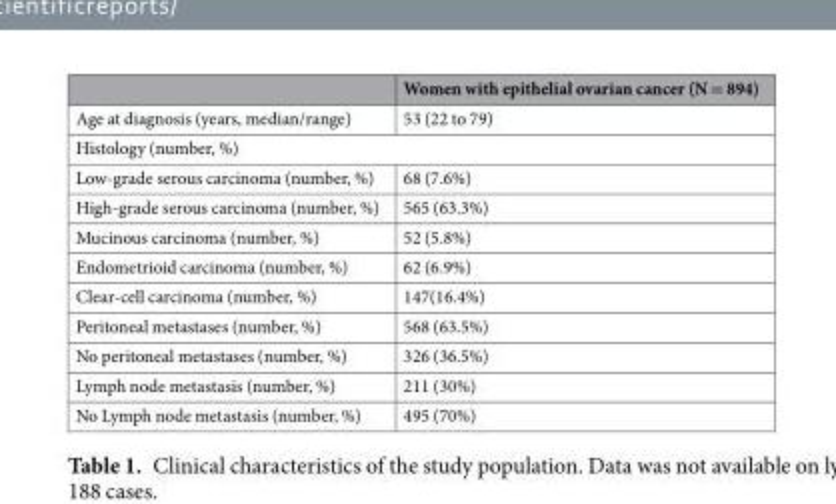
<table><thead><tr><td></td><td>Women with epithelial ovarian cancer (N = 894)</td></tr></thead><tbody><tr><td>Age at diagnosis (years, median/range)</td><td>53 (22 to 79)</td></tr><tr><td colspan="2">Histology (number, %)</td></tr><tr><td>Low-grade serous carcinoma (number, %)</td><td>68 (7.6%)</td></tr><tr><td>High-grade serous carcinoma (number, %)</td><td>565 (63.3%)</td></tr><tr><td>Mucinous carcinoma (number, %)</td><td>52 (5.8%)</td></tr><tr><td>Endometrioid carcinoma (number, %)</td><td>62 (6.9%)</td></tr><tr><td>Clear-cell carcinoma (number, %)</td><td>147(16.4%)</td></tr><tr><td>Peritoneal metastases (number, %)</td><td>568 (63.5%)</td></tr><tr><td>No peritoneal metastases (number, %)</td><td>326 (36.5%)</td></tr><tr><td>Lymph node metastasis (number, %)</td><td>211 (30%)</td></tr><tr><td>No Lymph node metastasis (number, %)</td><td>495 (70%)</td></tr></tbody></table>